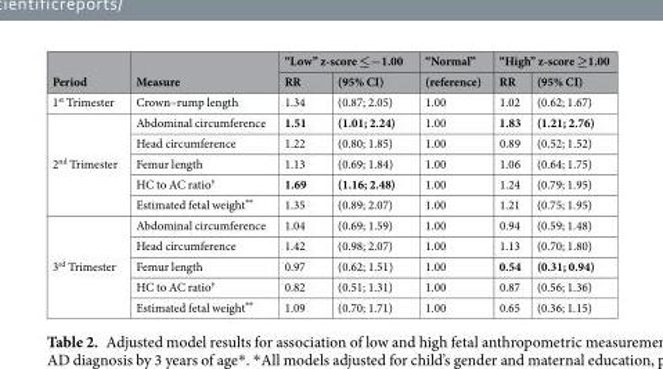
<table><thead><tr><td rowspan="2">Period</td><td rowspan="2">Measure</td><td colspan="2">“Low” z-score ≤−1.00</td><td rowspan="2">“Normal” (reference)</td><td colspan="2">“High” z-score ≥1.00</td></tr><tr><td>RR</td><td>(95% CI)</td><td>RR</td><td>(95% CI)</td></tr></thead><tbody><tr><td>1<sup>st</sup> Trimester</td><td>Crown–rump length</td><td>1.34</td><td>(0.87; 2.05)</td><td>1.00</td><td>1.02</td><td>(0.62; 1.67)</td></tr><tr><td rowspan="5">2<sup>nd</sup> Trimester</td><td>Abdominal circumference</td><td>1.51</td><td>(1.01; 2.24)</td><td>1.00</td><td>1.83</td><td>(1.21; 2.76)</td></tr><tr><td>Head circumference</td><td>1.22</td><td>(0.80; 1.85)</td><td>1.00</td><td>0.89</td><td>(0.52; 1.52)</td></tr><tr><td>Femur length</td><td>1.13</td><td>(0.69; 1.84)</td><td>1.00</td><td>1.06</td><td>(0.64; 1.75)</td></tr><tr><td>HC to AC ratio<sup>†</sup></td><td>1.69</td><td>(1.16; 2.48)</td><td>1.00</td><td>1.24</td><td>(0.79; 1.95)</td></tr><tr><td>Estimated fetal weight**</td><td>1.35</td><td>(0.89; 2.07)</td><td>1.00</td><td>1.21</td><td>(0.75; 1.95)</td></tr><tr><td rowspan="5">3<sup>rd</sup> Trimester</td><td>Abdominal circumference</td><td>1.04</td><td>(0.69; 1.59)</td><td>1.00</td><td>0.94</td><td>(0.59; 1.48)</td></tr><tr><td>Head circumference</td><td>1.42</td><td>(0.98; 2.07)</td><td>1.00</td><td>1.13</td><td>(0.70; 1.80)</td></tr><tr><td>Femur length</td><td>0.97</td><td>(0.62; 1.51)</td><td>1.00</td><td>0.54</td><td>(0.31; 0.94)</td></tr><tr><td>HC to AC ratio<sup>†</sup></td><td>0.82</td><td>(0.51; 1.31)</td><td>1.00</td><td>0.87</td><td>(0.56; 1.36)</td></tr><tr><td>Estimated fetal weight**</td><td>1.09</td><td>(0.70; 1.71)</td><td>1.00</td><td>0.65</td><td>(0.36; 1.15)</td></tr></tbody></table>